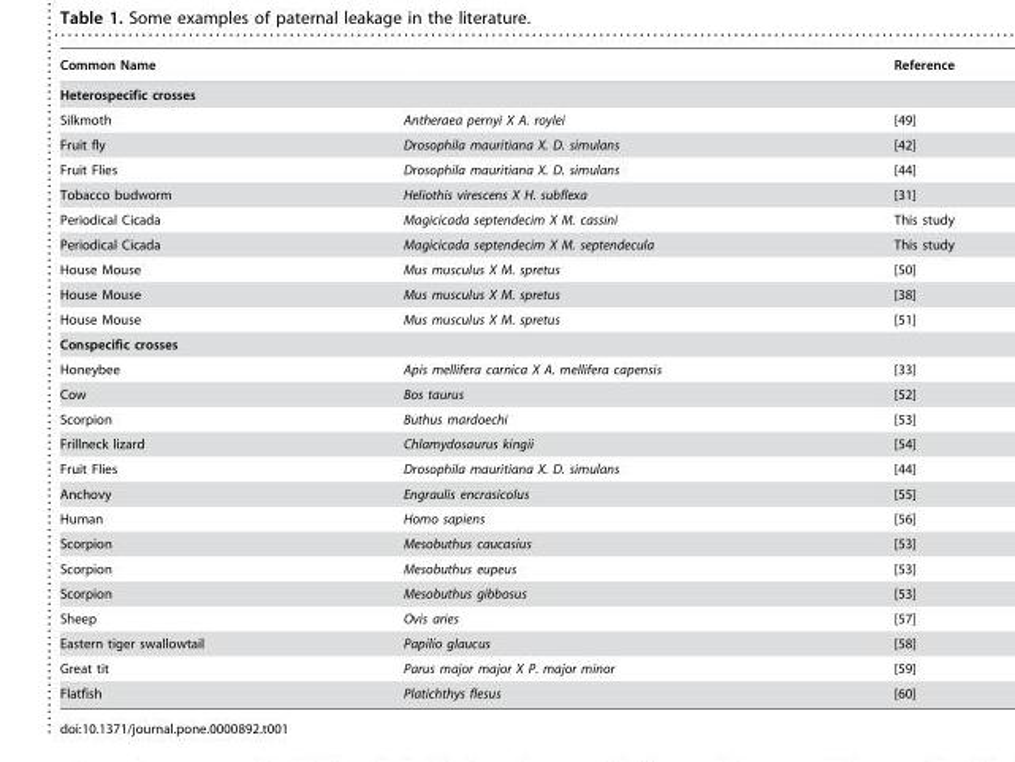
<table><thead><tr><td>Common Name</td><td></td><td>Reference</td></tr></thead><tbody><tr><td colspan="3">Heterospecific crosses</td></tr><tr><td>Silkmoth</td><td>Antheraea pernyi X A. roylei</td><td>[49]</td></tr><tr><td>Fruit fly</td><td>Drosophila mauritiana X. D. simulans</td><td>[42]</td></tr><tr><td>Fruit Flies</td><td>Drosophila mauritiana X. D. simulans</td><td>[44]</td></tr><tr><td>Tobacco budworm</td><td>Heliothis virescens X H. subflexa</td><td>[31]</td></tr><tr><td>Periodical Cicada</td><td>Magicicada septendecim X M. cassini</td><td>This study</td></tr><tr><td>Periodical Cicada</td><td>Magicicada septendecim X M. septendecula</td><td>This study</td></tr><tr><td>House Mouse</td><td>Mus musculus X M. spretus</td><td>[50]</td></tr><tr><td>House Mouse</td><td>Mus musculus X M. spretus</td><td>[38]</td></tr><tr><td>House Mouse</td><td>Mus musculus X M. spretus</td><td>[51]</td></tr><tr><td colspan="3">Conspecific crosses</td></tr><tr><td>Honeybee</td><td>Apis mellifera carnica X A. mellifera capensis</td><td>[33]</td></tr><tr><td>Cow</td><td>Bos taurus</td><td>[52]</td></tr><tr><td>Scorpion</td><td>Buthus mardoechi</td><td>[53]</td></tr><tr><td>Frillneck lizard</td><td>Chlamydosaurus kingii</td><td>[54]</td></tr><tr><td>Fruit Flies</td><td>Drosophila mauritiana X. D. simulans</td><td>[44]</td></tr><tr><td>Anchovy</td><td>Engraulis encrasicolus</td><td>[55]</td></tr><tr><td>Human</td><td>Homo sapiens</td><td>[56]</td></tr><tr><td>Scorpion</td><td>Mesobuthus caucasius</td><td>[53]</td></tr><tr><td>Scorpion</td><td>Mesobuthus eupeus</td><td>[53]</td></tr><tr><td>Scorpion</td><td>Mesobuthus gibbosus</td><td>[53]</td></tr><tr><td>Sheep</td><td>Ovis aries</td><td>[57]</td></tr><tr><td>Eastern tiger swallowtail</td><td>Papilio glaucus</td><td>[58]</td></tr><tr><td>Great tit</td><td>Parus major major X P. major minor</td><td>[59]</td></tr><tr><td>Flatfish</td><td>Platichthys flesus</td><td>[60]</td></tr></tbody></table>